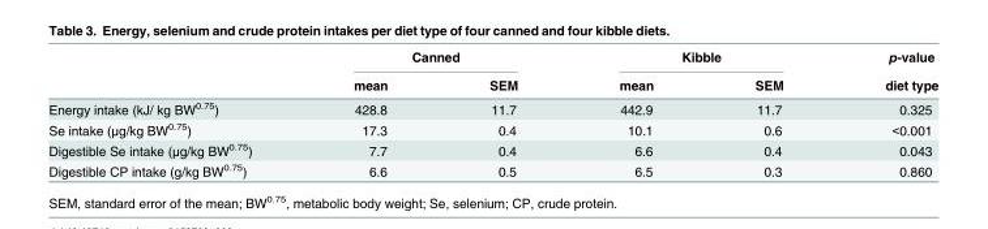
<table><thead><tr><td rowspan="2"></td><td colspan="2">Canned</td><td colspan="2">Kibble</td><td rowspan="2">p-value diet type</td></tr><tr><td>mean</td><td>SEM</td><td>mean</td><td>SEM</td></tr></thead><tbody><tr><td>Energy intake (kJ/ kg BW<sup>0.75</sup>)</td><td>428.8</td><td>11.7</td><td>442.9</td><td>11.7</td><td>0.325</td></tr><tr><td>Se intake (μg/kg BW<sup>0.75</sup>)</td><td>17.3</td><td>0.4</td><td>10.1</td><td>0.6</td><td>&lt;0.001</td></tr><tr><td>Digestible Se intake (μg/kg BW<sup>0.75</sup>)</td><td>7.7</td><td>0.4</td><td>6.6</td><td>0.4</td><td>0.043</td></tr><tr><td>Digestible CP intake (g/kg BW<sup>0.75</sup>)</td><td>6.6</td><td>0.5</td><td>6.5</td><td>0.3</td><td>0.860</td></tr></tbody></table>